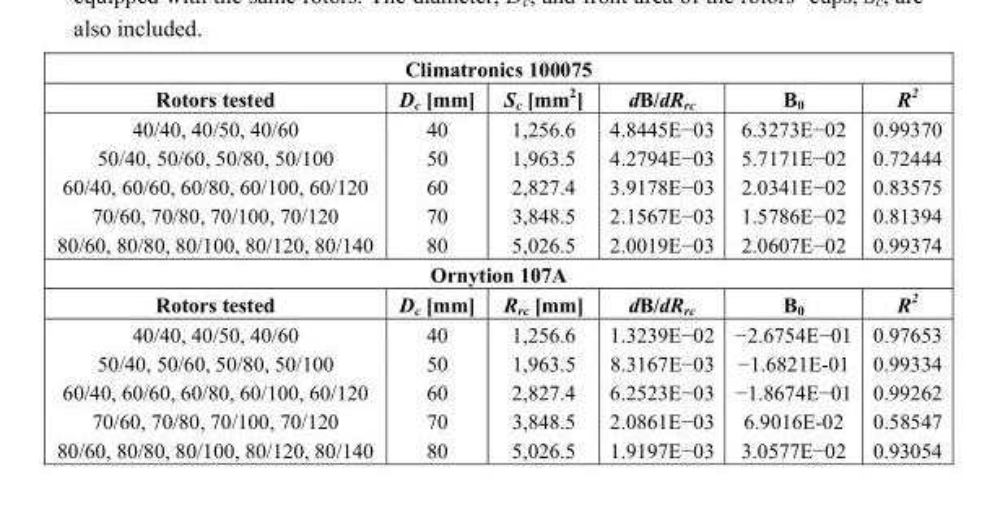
<table><thead><tr><td colspan="6">Climatronics 100075</td></tr><tr><td>Rotors tested</td><td>D<sub>c</sub> [mm]</td><td>S<sub>c</sub> [mm<sup>2</sup>]</td><td>dB/dR<sub>rc</sub></td><td>B<sub>0</sub></td><td>R<sup>2</sup></td></tr></thead><tbody><tr><td>40/40, 40/50, 40/60</td><td>40</td><td>1,256.6</td><td>4.8445E−03</td><td>6.3273E−02</td><td>0.99370</td></tr><tr><td>50/40, 50/60, 50/80, 50/100</td><td>50</td><td>1,963.5</td><td>4.2794E−03</td><td>5.7171E−02</td><td>0.72444</td></tr><tr><td>60/40, 60/60, 60/80, 60/100, 60/120</td><td>60</td><td>2,827.4</td><td>3.9178E−03</td><td>2.0341E−02</td><td>0.83575</td></tr><tr><td>70/60, 70/80, 70/100, 70/120</td><td>70</td><td>3,848.5</td><td>2.1567E−03</td><td>1.5786E−02</td><td>0.81394</td></tr><tr><td>80/60, 80/80, 80/100, 80/120, 80/140</td><td>80</td><td>5,026.5</td><td>2.0019E−03</td><td>2.0607E−02</td><td>0.99374</td></tr><tr><td colspan="6">Ornytion 107A</td></tr><tr><td>Rotors tested</td><td>D<sub>c</sub> [mm]</td><td>R<sub>rc</sub> [mm]</td><td>dB/dR<sub>rc</sub></td><td>B<sub>0</sub></td><td>R<sup>2</sup></td></tr><tr><td>40/40, 40/50, 40/60</td><td>40</td><td>1,256.6</td><td>1.3239E−02</td><td>−2.6754E−01</td><td>0.97653</td></tr><tr><td>50/40, 50/60, 50/80, 50/100</td><td>50</td><td>1,963.5</td><td>8.3167E−03</td><td>−1.6821E-01</td><td>0.99334</td></tr><tr><td>60/40, 60/60, 60/80, 60/100, 60/120</td><td>60</td><td>2,827.4</td><td>6.2523E−03</td><td>−1.8674E−01</td><td>0.99262</td></tr><tr><td>70/60, 70/80, 70/100, 70/120</td><td>70</td><td>3,848.5</td><td>2.0861E−03</td><td>6.9016E-02</td><td>0.58547</td></tr><tr><td>80/60, 80/80, 80/100, 80/120, 80/140</td><td>80</td><td>5,026.5</td><td>1.9197E−03</td><td>3.0577E−02</td><td>0.93054</td></tr></tbody></table>